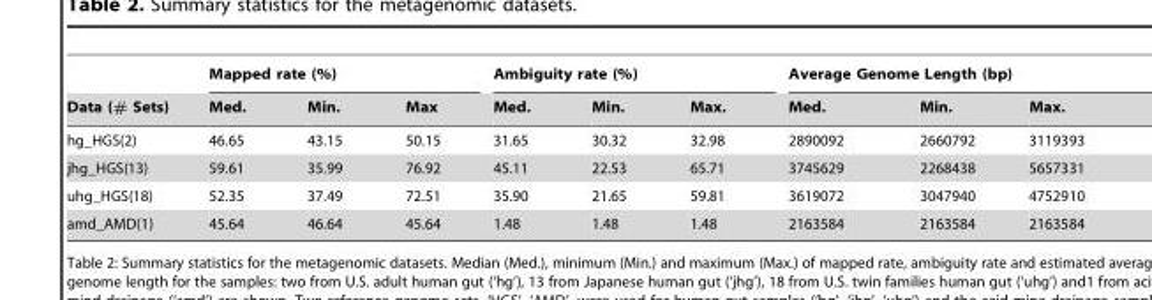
<table><thead><tr><td rowspan="2">Data (# Sets)</td><td colspan="3">Mapped rate (%)</td><td colspan="3">Ambiguity rate (%)</td><td colspan="3">Average Genome Length (bp)</td></tr><tr><td>Med.</td><td>Min.</td><td>Max</td><td>Med.</td><td>Min.</td><td>Max.</td><td>Med.</td><td>Min.</td><td>Max.</td></tr></thead><tbody><tr><td>hg_HGS(2)</td><td>46.65</td><td>43.15</td><td>50.15</td><td>31.65</td><td>30.32</td><td>32.98</td><td>2890092</td><td>2660792</td><td>3119393</td></tr><tr><td>jhg_HGS(13)</td><td>59.61</td><td>35.99</td><td>76.92</td><td>45.11</td><td>22.53</td><td>65.71</td><td>3745629</td><td>2268438</td><td>5657331</td></tr><tr><td>uhg_HGS(18)</td><td>52.35</td><td>37.49</td><td>72.51</td><td>35.90</td><td>21.65</td><td>59.81</td><td>3619072</td><td>3047940</td><td>4752910</td></tr><tr><td>amd_AMD(1)</td><td>45.64</td><td>46.64</td><td>45.64</td><td>1.48</td><td>1.48</td><td>1.48</td><td>2163584</td><td>2163584</td><td>2163584</td></tr></tbody></table>